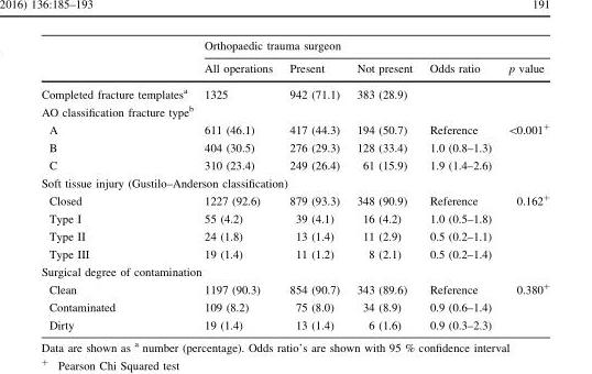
<table><thead><tr><td rowspan="2"></td><td colspan="5">Orthopaedic trauma surgeon</td></tr><tr><td>All operations</td><td>Present</td><td>Not present</td><td>Odds ratio</td><td>p value</td></tr></thead><tbody><tr><td>Completed fracture templates<sup>a</sup></td><td>1325</td><td>942 (71.1)</td><td>383 (28.9)</td><td></td><td></td></tr><tr><td colspan="6">AO classification fracture type<sup>b</sup></td></tr><tr><td>A</td><td>611 (46.1)</td><td>417 (44.3)</td><td>194 (50.7)</td><td>Reference</td><td rowspan="3">&lt;0.001<sup>+</sup></td></tr><tr><td>B</td><td>404 (30.5)</td><td>276 (29.3)</td><td>128 (33.4)</td><td>1.0 (0.8–1.3)</td></tr><tr><td>C</td><td>310 (23.4)</td><td>249 (26.4)</td><td>61 (15.9)</td><td>1.9 (1.4–2.6)</td></tr><tr><td colspan="6">Soft tissue injury (Gustilo–Anderson classification)</td></tr><tr><td>Closed</td><td>1227 (92.6)</td><td>879 (93.3)</td><td>348 (90.9)</td><td>Reference</td><td rowspan="4">0.162<sup>+</sup></td></tr><tr><td>Type I</td><td>55 (4.2)</td><td>39 (4.1)</td><td>16 (4.2)</td><td>1.0 (0.5–1.8)</td></tr><tr><td>Type II</td><td>24 (1.8)</td><td>13 (1.4)</td><td>11 (2.9)</td><td>0.5 (0.2–1.1)</td></tr><tr><td>Type III</td><td>19 (1.4)</td><td>11 (1.2)</td><td>8 (2.1)</td><td>0.5 (0.2–1.4)</td></tr><tr><td colspan="6">Surgical degree of contamination</td></tr><tr><td>Clean</td><td>1197 (90.3)</td><td>854 (90.7)</td><td>343 (89.6)</td><td>Reference</td><td rowspan="3">0.380<sup>+</sup></td></tr><tr><td>Contaminated</td><td>109 (8.2)</td><td>75 (8.0)</td><td>34 (8.9)</td><td>0.9 (0.6–1.4)</td></tr><tr><td>Dirty</td><td>19 (1.4)</td><td>13 (1.4)</td><td>6 (1.6)</td><td>0.9 (0.3–2.3)</td></tr></tbody></table>